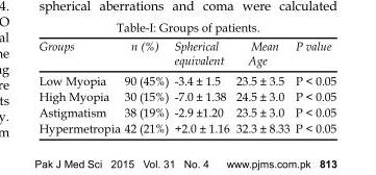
<table><thead><tr><td>Groups</td><td>n (%)</td><td>Spherical equivalent</td><td>Mean Age</td><td>P value</td></tr></thead><tbody><tr><td>Low Myopia</td><td>90 (45%)</td><td>-3.4 ± 1.5</td><td>23.5 ± 3.5</td><td>P &lt; 0.05</td></tr><tr><td>High Myopia</td><td>30 (15%)</td><td>-7.0 ± 1.38</td><td>24.5 ± 3.0</td><td>P &lt; 0.05</td></tr><tr><td>Astigmatism</td><td>38 (19%)</td><td>-2.9 ±1.20</td><td>23.5 ± 3.0</td><td>P &lt; 0.05</td></tr><tr><td>Hypermetropia</td><td>42 (21%)</td><td>+2.0 ± 1.16</td><td>32.3 ± 8.33</td><td>P &lt; 0.05</td></tr></tbody></table>